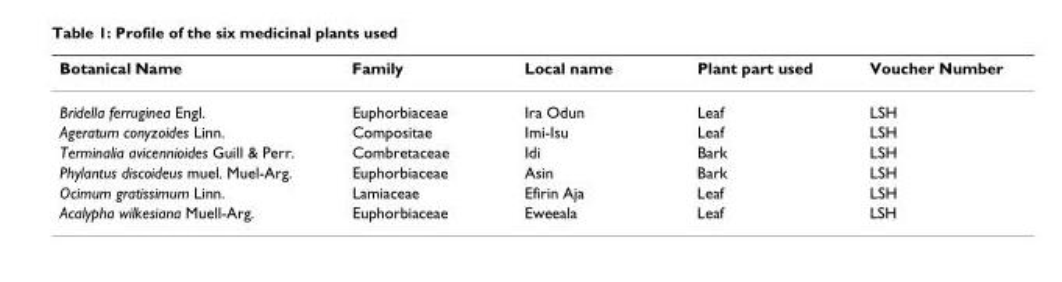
<table><thead><tr><td>Botanical Name</td><td>Family</td><td>Local name</td><td>Plant part used</td><td>Voucher Number</td></tr></thead><tbody><tr><td>Bridella ferruginea Engl.</td><td>Euphorbiaceae</td><td>Ira Odun</td><td>Leaf</td><td>LSH</td></tr><tr><td>Ageratum conyzoides Linn.</td><td>Compositae</td><td>Imi-Isu</td><td>Leaf</td><td>LSH</td></tr><tr><td>Terminalia avicennioides Guill &amp; Perr.</td><td>Combretaceae</td><td>Idi</td><td>Bark</td><td>LSH</td></tr><tr><td>Phylantus discoideus muel. Muel-Arg.</td><td>Euphorbiaceae</td><td>Asin</td><td>Bark</td><td>LSH</td></tr><tr><td>Ocimum gratissimum Linn.</td><td>Lamiaceae</td><td>Efirin Aja</td><td>Leaf</td><td>LSH</td></tr><tr><td>Acalypha wilkesiana Muell-Arg.</td><td>Euphorbiaceae</td><td>Eweeala</td><td>Leaf</td><td>LSH</td></tr></tbody></table>